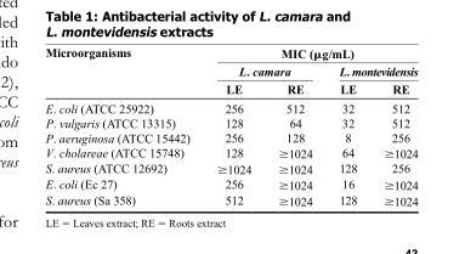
<table><thead><tr><td rowspan="3">Microorganisms</td><td colspan="4">MIC (μg/mL)</td></tr><tr><td colspan="2">L. camara</td><td colspan="2">L. montevidensis</td></tr><tr><td>LE</td><td>RE</td><td>LE</td><td>RE</td></tr></thead><tbody><tr><td>E. coli (ATCC 25922)</td><td>256</td><td>512</td><td>32</td><td>512</td></tr><tr><td>P. vulgaris (ATCC 13315)</td><td>128</td><td>64</td><td>32</td><td>512</td></tr><tr><td>P. aeruginosa (ATCC 15442)</td><td>256</td><td>128</td><td>8</td><td>256</td></tr><tr><td>V. cholareae (ATCC 15748)</td><td>128</td><td>≥1024</td><td>64</td><td>≥1024</td></tr><tr><td>S. aureus (ATCC 12692)</td><td>≥1024</td><td>≥1024</td><td>128</td><td>256</td></tr><tr><td>E. coli (Ec 27)</td><td>256</td><td>≥1024</td><td>16</td><td>≥1024</td></tr><tr><td>S. aureus (Sa 358)</td><td>512</td><td>≥1024</td><td>128</td><td>≥1024</td></tr></tbody></table>